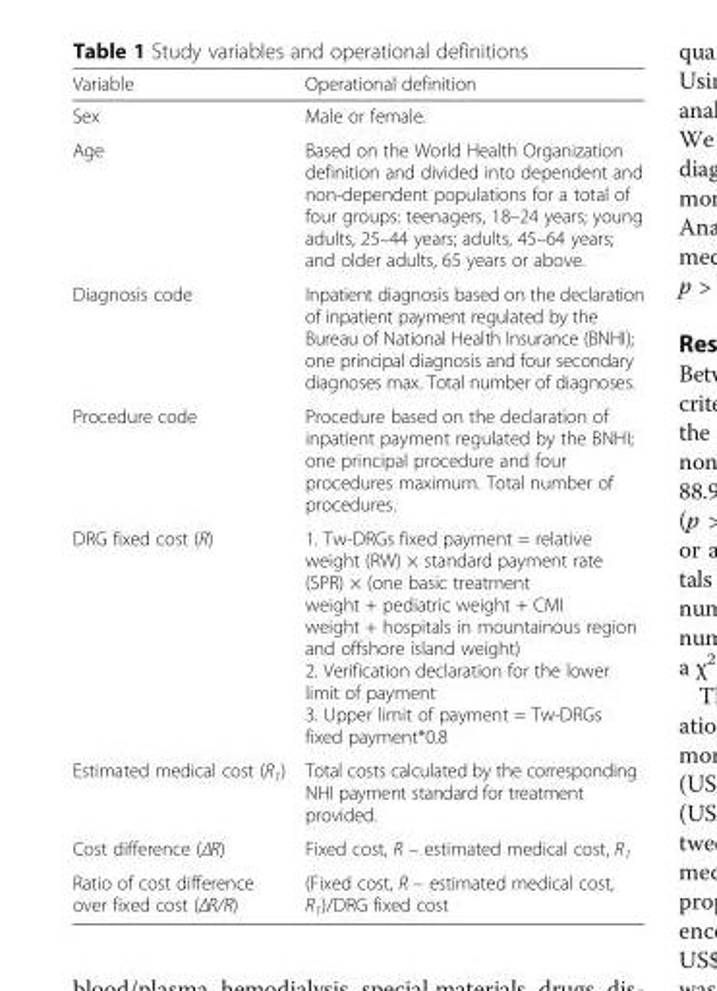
<table><thead><tr><td>Variable</td><td>Operational definition</td></tr></thead><tbody><tr><td>Sex</td><td>Male or female.</td></tr><tr><td>Age</td><td>Based on the World Health Organization definition and divided into dependent and non-dependent populations for a total of four groups: teenagers, 18–24 years; young adults, 25–44 years; adults, 45–64 years; and older adults, 65 years or above.</td></tr><tr><td>Diagnosis code</td><td>Inpatient diagnosis based on the declaration of inpatient payment regulated by the Bureau of National Health Insurance (BNHI); one principal diagnosis and four secondary diagnoses max. Total number of diagnoses.</td></tr><tr><td>Procedure code</td><td>Procedure based on the declaration of inpatient payment regulated by the BNHI; one principal procedure and four procedures maximum. Total number of procedures.</td></tr><tr><td>DRG fixed cost (R)</td><td>1. Tw-DRGs fixed payment = relative weight (RW) × standard payment rate (SPR) × (one basic treatment weight + pediatric weight + CMI weight + hospitals in mountainous region and offshore island weight) 2. Verification declaration for the lower limit of payment 3. Upper limit of payment = Tw-DRGs fixed payment*0.8</td></tr><tr><td>Estimated medical cost (R<sub>1</sub>)</td><td>Total costs calculated by the corresponding NHI payment standard for treatment provided.</td></tr><tr><td>Cost difference (ΔR)</td><td>Fixed cost, R – estimated medical cost, R<sub>1</sub></td></tr><tr><td>Ratio of cost difference over fixed cost (ΔR/R)</td><td>(Fixed cost, R – estimated medical cost, R<sub>1</sub>)/DRG fixed cost</td></tr></tbody></table>